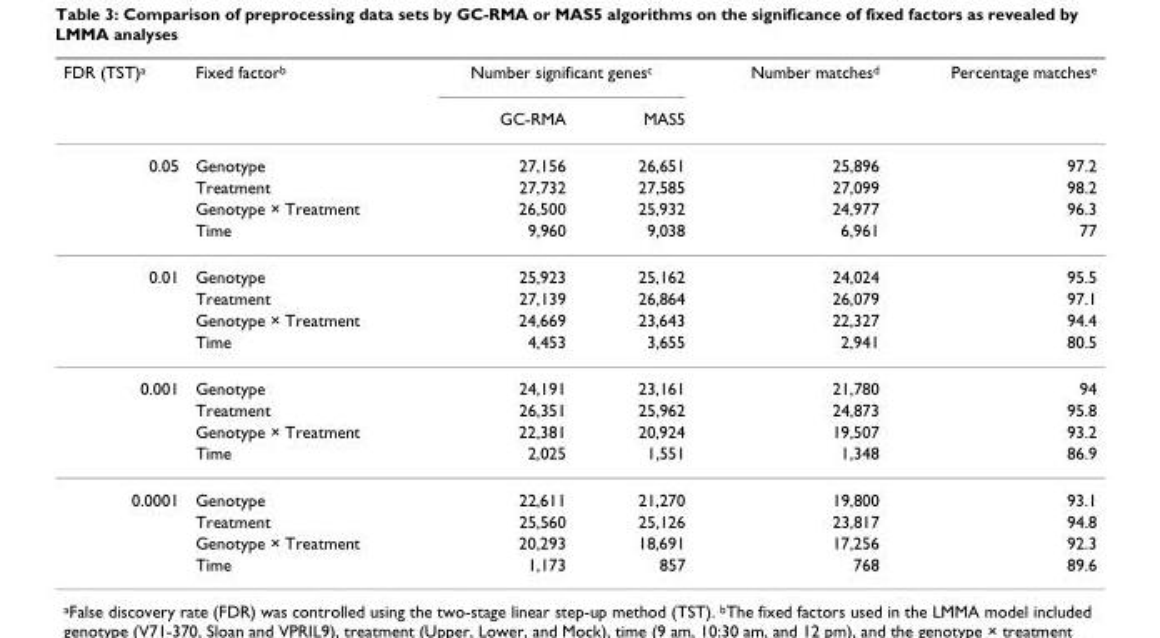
<table><thead><tr><td rowspan="2">FDR (TST)<sup>a</sup></td><td rowspan="2">Fixed factor<sup>b</sup></td><td colspan="2">Number significant genes<sup>c</sup></td><td rowspan="2">Number matches<sup>d</sup></td><td rowspan="2">Percentage matches<sup>e</sup></td></tr><tr><td>GC-RMA</td><td>MAS5</td></tr></thead><tbody><tr><td rowspan="4">0.05</td><td>Genotype</td><td>27,156</td><td>26,651</td><td>25,896</td><td>97.2</td></tr><tr><td>Treatment</td><td>27,732</td><td>27,585</td><td>27,099</td><td>98.2</td></tr><tr><td>Genotype × Treatment</td><td>26,500</td><td>25,932</td><td>24,977</td><td>96.3</td></tr><tr><td>Time</td><td>9,960</td><td>9,038</td><td>6,961</td><td>77</td></tr><tr><td rowspan="4">0.01</td><td>Genotype</td><td>25,923</td><td>25,162</td><td>24,024</td><td>95.5</td></tr><tr><td>Treatment</td><td>27,139</td><td>26,864</td><td>26,079</td><td>97.1</td></tr><tr><td>Genotype × Treatment</td><td>24,669</td><td>23,643</td><td>22,327</td><td>94.4</td></tr><tr><td>Time</td><td>4,453</td><td>3,655</td><td>2,941</td><td>80.5</td></tr><tr><td rowspan="4">0.001</td><td>Genotype</td><td>24,191</td><td>23,161</td><td>21,780</td><td>94</td></tr><tr><td>Treatment</td><td>26,351</td><td>25,962</td><td>24,873</td><td>95.8</td></tr><tr><td>Genotype × Treatment</td><td>22,381</td><td>20,924</td><td>19,507</td><td>93.2</td></tr><tr><td>Time</td><td>2,025</td><td>1,551</td><td>1,348</td><td>86.9</td></tr><tr><td rowspan="4">0.0001</td><td>Genotype</td><td>22,611</td><td>21,270</td><td>19,800</td><td>93.1</td></tr><tr><td>Treatment</td><td>25,560</td><td>25,126</td><td>23,817</td><td>94.8</td></tr><tr><td>Genotype × Treatment</td><td>20,293</td><td>18,691</td><td>17,256</td><td>92.3</td></tr><tr><td>Time</td><td>1,173</td><td>857</td><td>768</td><td>89.6</td></tr></tbody></table>